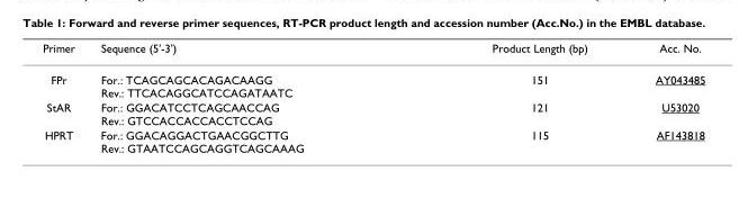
<table><thead><tr><td>Primer</td><td>Sequence (5&#x27;-3&#x27;)</td><td>Product Length (bp)</td><td>Acc. No.</td></tr></thead><tbody><tr><td>FPr</td><td>For.: TCAGCAGCACAGACAAGG Rev.: TTCACAGGCATCCAGATAATC</td><td>151</td><td>AY043485</td></tr><tr><td>StAR</td><td>For.: GGACATCCTCAGCAACCAG Rev.: GTCCACCACCACCTCCAG</td><td>121</td><td>U53020</td></tr><tr><td>HPRT</td><td>For.: GGACAGGACTGAACGGCTTG Rev.: GTAATCCAGCAGGTCAGCAAAG</td><td>115</td><td>AF143818</td></tr></tbody></table>